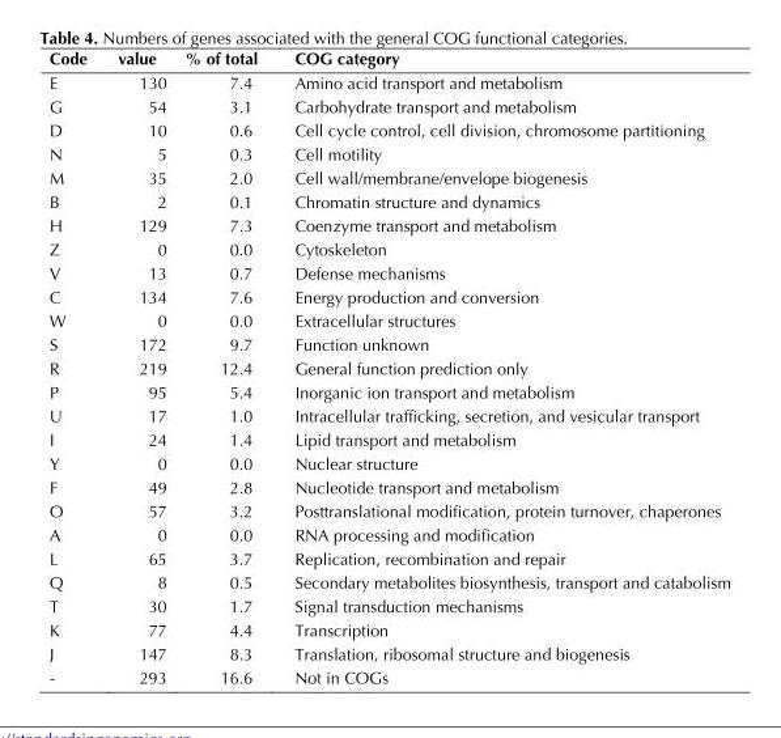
<table><thead><tr><td>Code</td><td>value</td><td>% of total</td><td>COG category</td></tr></thead><tbody><tr><td>E</td><td>130</td><td>7.4</td><td>Amino acid transport and metabolism</td></tr><tr><td>G</td><td>54</td><td>3.1</td><td>Carbohydrate transport and metabolism</td></tr><tr><td>D</td><td>10</td><td>0.6</td><td>Cell cycle control, cell division, chromosome partitioning</td></tr><tr><td>N</td><td>5</td><td>0.3</td><td>Cell motility</td></tr><tr><td>M</td><td>35</td><td>2.0</td><td>Cell wall/membrane/envelope biogenesis</td></tr><tr><td>B</td><td>2</td><td>0.1</td><td>Chromatin structure and dynamics</td></tr><tr><td>H</td><td>129</td><td>7.3</td><td>Coenzyme transport and metabolism</td></tr><tr><td>Z</td><td>0</td><td>0.0</td><td>Cytoskeleton</td></tr><tr><td>V</td><td>13</td><td>0.7</td><td>Defense mechanisms</td></tr><tr><td>C</td><td>134</td><td>7.6</td><td>Energy production and conversion</td></tr><tr><td>W</td><td>0</td><td>0.0</td><td>Extracellular structures</td></tr><tr><td>S</td><td>172</td><td>9.7</td><td>Function unknown</td></tr><tr><td>R</td><td>219</td><td>12.4</td><td>General function prediction only</td></tr><tr><td>P</td><td>95</td><td>5.4</td><td>Inorganic ion transport and metabolism</td></tr><tr><td>U</td><td>17</td><td>1.0</td><td>Intracellular trafficking, secretion, and vesicular transport</td></tr><tr><td>I</td><td>24</td><td>1.4</td><td>Lipid transport and metabolism</td></tr><tr><td>Y</td><td>0</td><td>0.0</td><td>Nuclear structure</td></tr><tr><td>F</td><td>49</td><td>2.8</td><td>Nucleotide transport and metabolism</td></tr><tr><td>O</td><td>57</td><td>3.2</td><td>Posttranslational modification, protein turnover, chaperones</td></tr><tr><td>A</td><td>0</td><td>0.0</td><td>RNA processing and modification</td></tr><tr><td>L</td><td>65</td><td>3.7</td><td>Replication, recombination and repair</td></tr><tr><td>Q</td><td>8</td><td>0.5</td><td>Secondary metabolites biosynthesis, transport and catabolism</td></tr><tr><td>T</td><td>30</td><td>1.7</td><td>Signal transduction mechanisms</td></tr><tr><td>K</td><td>77</td><td>4.4</td><td>Transcription</td></tr><tr><td>J</td><td>147</td><td>8.3</td><td>Translation, ribosomal structure and biogenesis</td></tr><tr><td>-</td><td>293</td><td>16.6</td><td>Not in COGs</td></tr></tbody></table>